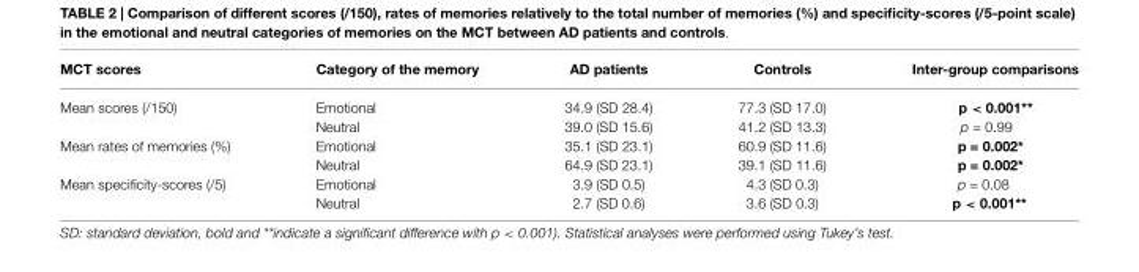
<table><thead><tr><td>MCT scores</td><td>Category of the memory</td><td>AD patients</td><td>Controls</td><td>Inter-group comparisons</td></tr></thead><tbody><tr><td rowspan="2">Mean scores (/150)</td><td>Emotional</td><td>34.9 (SD 28.4)</td><td>77.3 (SD 17.0)</td><td>p &lt; 0.001**</td></tr><tr><td>Neutral</td><td>39.0 (SD 15.6)</td><td>41.2 (SD 13.3)</td><td>p = 0.99</td></tr><tr><td rowspan="2">Mean rates of memories (%)</td><td>Emotional</td><td>35.1 (SD 23.1)</td><td>60.9 (SD 11.6)</td><td>p = 0.002*</td></tr><tr><td>Neutral</td><td>64.9 (SD 23.1)</td><td>39.1 (SD 11.6)</td><td>p = 0.002*</td></tr><tr><td rowspan="2">Mean specificity-scores (/5)</td><td>Emotional</td><td>3.9 (SD 0.5)</td><td>4.3 (SD 0.3)</td><td>p = 0.08</td></tr><tr><td>Neutral</td><td>2.7 (SD 0.6)</td><td>3.6 (SD 0.3)</td><td>p &lt; 0.001**</td></tr></tbody></table>